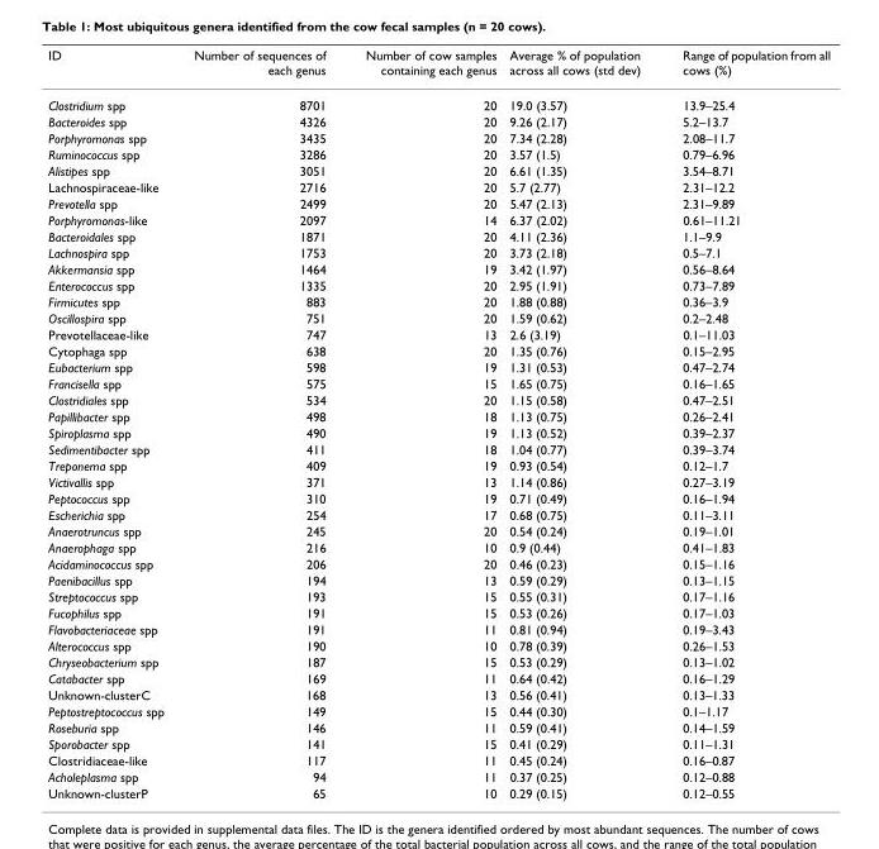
<table><thead><tr><td>ID</td><td>Number of sequences of each genus</td><td>Number of cow samples containing each genus</td><td>Average % of population across all cows (std dev)</td><td>Range of population from all cows (%)</td></tr></thead><tbody><tr><td>Clostridium spp</td><td>8701</td><td>20</td><td>19.0 (3.57)</td><td>13.9–25.4</td></tr><tr><td>Bacteroides spp</td><td>4326</td><td>20</td><td>9.26 (2.17)</td><td>5.2–13.7</td></tr><tr><td>Porphyromonas spp</td><td>3435</td><td>20</td><td>7.34 (2.28)</td><td>2.08–11.7</td></tr><tr><td>Ruminococcus spp</td><td>3286</td><td>20</td><td>3.57 (1.5)</td><td>0.79–6.96</td></tr><tr><td>Alistipes spp</td><td>3051</td><td>20</td><td>6.61 (1.35)</td><td>3.54–8.71</td></tr><tr><td>Lachnospiraceae-like</td><td>2716</td><td>20</td><td>5.7 (2.77)</td><td>2.31–12.2</td></tr><tr><td>Prevotella spp</td><td>2499</td><td>20</td><td>5.47 (2.13)</td><td>2.31–9.89</td></tr><tr><td>Porphyromonas-like</td><td>2097</td><td>14</td><td>6.37 (2.02)</td><td>0.61–11.21</td></tr><tr><td>Bacteroidales spp</td><td>1871</td><td>20</td><td>4.11 (2.36)</td><td>1.1–9.9</td></tr><tr><td>Lachnospira spp</td><td>1753</td><td>20</td><td>3.73 (2.18)</td><td>0.5–7.1</td></tr><tr><td>Akkermansia spp</td><td>1464</td><td>19</td><td>3.42 (1.97)</td><td>0.56–8.64</td></tr><tr><td>Enterococcus spp</td><td>1335</td><td>20</td><td>2.95 (1.91)</td><td>0.73–7.89</td></tr><tr><td>Firmicutes spp</td><td>883</td><td>20</td><td>1.88 (0.88)</td><td>0.36–3.9</td></tr><tr><td>Oscillospira spp</td><td>751</td><td>20</td><td>1.59 (0.62)</td><td>0.2–2.48</td></tr><tr><td>Prevotellaceae-like</td><td>747</td><td>13</td><td>2.6 (3.19)</td><td>0.1–11.03</td></tr><tr><td>Cytophaga spp</td><td>638</td><td>20</td><td>1.35 (0.76)</td><td>0.15–2.95</td></tr><tr><td>Eubacterium spp</td><td>598</td><td>19</td><td>1.31 (0.53)</td><td>0.47–2.74</td></tr><tr><td>Francisella spp</td><td>575</td><td>15</td><td>1.65 (0.75)</td><td>0.16–1.65</td></tr><tr><td>Clostridiales spp</td><td>534</td><td>20</td><td>1.15 (0.58)</td><td>0.47–2.51</td></tr><tr><td>Papillibacter spp</td><td>498</td><td>18</td><td>1.13 (0.75)</td><td>0.26–2.41</td></tr><tr><td>Spiroplasma spp</td><td>490</td><td>19</td><td>1.13 (0.52)</td><td>0.39–2.37</td></tr><tr><td>Sedimentibacter spp</td><td>411</td><td>18</td><td>1.04 (0.77)</td><td>0.39–3.74</td></tr><tr><td>Treponema spp</td><td>409</td><td>19</td><td>0.93 (0.54)</td><td>0.12–1.7</td></tr><tr><td>Victivallis spp</td><td>371</td><td>13</td><td>1.14 (0.86)</td><td>0.27–3.19</td></tr><tr><td>Peptococcus spp</td><td>310</td><td>19</td><td>0.71 (0.49)</td><td>0.16–1.94</td></tr><tr><td>Escherichia spp</td><td>254</td><td>17</td><td>0.68 (0.75)</td><td>0.11–3.11</td></tr><tr><td>Anaerotruncus spp</td><td>245</td><td>20</td><td>0.54 (0.24)</td><td>0.19–1.01</td></tr><tr><td>Anaerophaga spp</td><td>216</td><td>10</td><td>0.9 (0.44)</td><td>0.41–1.83</td></tr><tr><td>Acidaminococcus spp</td><td>206</td><td>20</td><td>0.46 (0.23)</td><td>0.15–1.16</td></tr><tr><td>Paenibacillus spp</td><td>194</td><td>13</td><td>0.59 (0.29)</td><td>0.13–1.15</td></tr><tr><td>Streptococcus spp</td><td>193</td><td>15</td><td>0.55 (0.31)</td><td>0.17–1.16</td></tr><tr><td>Fucophilus spp</td><td>191</td><td>15</td><td>0.53 (0.26)</td><td>0.17–1.03</td></tr><tr><td>Flavobacteriaceae spp</td><td>191</td><td>11</td><td>0.81 (0.94)</td><td>0.19–3.43</td></tr><tr><td>Alterococcus spp</td><td>190</td><td>10</td><td>0.78 (0.39)</td><td>0.26–1.53</td></tr><tr><td>Chryseobacterium spp</td><td>187</td><td>15</td><td>0.53 (0.29)</td><td>0.13–1.02</td></tr><tr><td>Catabacter spp</td><td>169</td><td>11</td><td>0.64 (0.42)</td><td>0.16–1.29</td></tr><tr><td>Unknown-clusterC</td><td>168</td><td>13</td><td>0.56 (0.41)</td><td>0.13–1.33</td></tr><tr><td>Peptostreptococcus spp</td><td>149</td><td>15</td><td>0.44 (0.30)</td><td>0.1–1.17</td></tr><tr><td>Roseburia spp</td><td>146</td><td>11</td><td>0.59 (0.41)</td><td>0.14–1.59</td></tr><tr><td>Sporobacter spp</td><td>141</td><td>15</td><td>0.41 (0.29)</td><td>0.11–1.31</td></tr><tr><td>Clostridiaceae-like</td><td>117</td><td>11</td><td>0.45 (0.24)</td><td>0.16–0.87</td></tr><tr><td>Acholeplasma spp</td><td>94</td><td>11</td><td>0.37 (0.25)</td><td>0.12–0.88</td></tr><tr><td>Unknown-clusterP</td><td>65</td><td>10</td><td>0.29 (0.15)</td><td>0.12–0.55</td></tr></tbody></table>